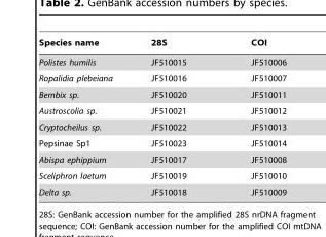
<table><thead><tr><td>Species name</td><td>28S</td><td>COI</td></tr></thead><tbody><tr><td>Polistes humilis</td><td>JF510015</td><td>JF510006</td></tr><tr><td>Ropalidia plebeiana</td><td>JF510016</td><td>JF510007</td></tr><tr><td>Bembix sp.</td><td>JF510020</td><td>JF510011</td></tr><tr><td>Austroscolia sp.</td><td>JF510021</td><td>JF510012</td></tr><tr><td>Cryptocheilus sp.</td><td>JF510022</td><td>JF510013</td></tr><tr><td>Pepsinae Sp1</td><td>JF510023</td><td>JF510014</td></tr><tr><td>Abispa ephippium</td><td>JF510017</td><td>JF510008</td></tr><tr><td>Sceliphron laetum</td><td>JF510019</td><td>JF510010</td></tr><tr><td>Delta sp.</td><td>JF510018</td><td>JF510009</td></tr></tbody></table>